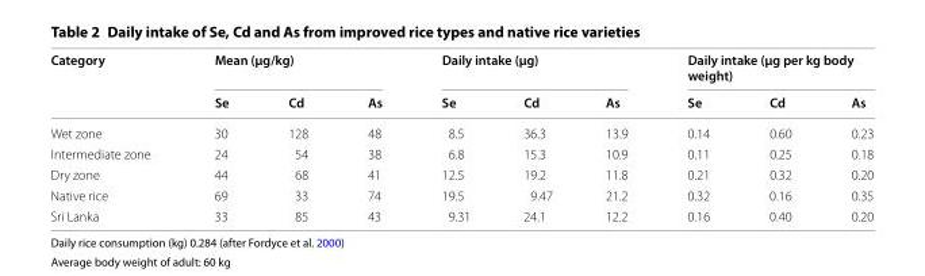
<table><thead><tr><td rowspan="2">Category</td><td colspan="3">Mean (µg/kg)</td><td colspan="3">Daily intake (µg)</td><td colspan="3">Daily intake (µg per kg body weight)</td></tr><tr><td>Se</td><td>Cd</td><td>As</td><td>Se</td><td>Cd</td><td>As</td><td>Se</td><td>Cd</td><td>As</td></tr></thead><tbody><tr><td>Wet zone</td><td>30</td><td>128</td><td>48</td><td>8.5</td><td>36.3</td><td>13.9</td><td>0.14</td><td>0.60</td><td>0.23</td></tr><tr><td>Intermediate zone</td><td>24</td><td>54</td><td>38</td><td>6.8</td><td>15.3</td><td>10.9</td><td>0.11</td><td>0.25</td><td>0.18</td></tr><tr><td>Dry zone</td><td>44</td><td>68</td><td>41</td><td>12.5</td><td>19.2</td><td>11.8</td><td>0.21</td><td>0.32</td><td>0.20</td></tr><tr><td>Native rice</td><td>69</td><td>33</td><td>74</td><td>19.5</td><td>9.47</td><td>21.2</td><td>0.32</td><td>0.16</td><td>0.35</td></tr><tr><td>Sri Lanka</td><td>33</td><td>85</td><td>43</td><td>9.31</td><td>24.1</td><td>12.2</td><td>0.16</td><td>0.40</td><td>0.20</td></tr></tbody></table>